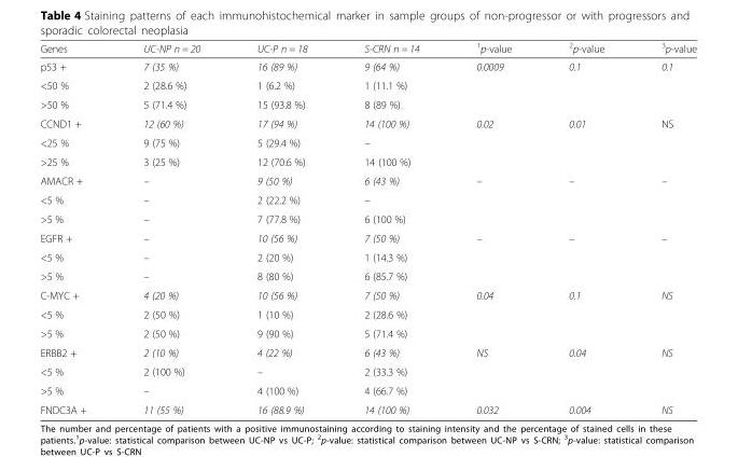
<table><thead><tr><td>Genes</td><td>UC-NP n = 20</td><td>UC-P n = 18</td><td>S-CRN n = 14</td><td><sup>1</sup>p-value</td><td><sup>2</sup>p-value</td><td><sup>3</sup>p-value</td></tr></thead><tbody><tr><td>p53 +</td><td>7 (35 %)</td><td>16 (89 %)</td><td>9 (64 %)</td><td rowspan="3">0.0009</td><td rowspan="3">0.1</td><td rowspan="3">0.1</td></tr><tr><td>&lt;50 %</td><td>2 (28.6 %)</td><td>1 (6.2 %)</td><td>1 (11.1 %)</td></tr><tr><td>&gt;50 %</td><td>5 (71.4 %)</td><td>15 (93.8 %)</td><td>8 (89 %)</td></tr><tr><td>CCND1 +</td><td>12 (60 %)</td><td>17 (94 %)</td><td>14 (100 %)</td><td rowspan="3">0.02</td><td rowspan="3">0.01</td><td rowspan="3">NS</td></tr><tr><td>&lt;25 %</td><td>9 (75 %)</td><td>5 (29.4 %)</td><td>–</td></tr><tr><td>&gt;25 %</td><td>3 (25 %)</td><td>12 (70.6 %)</td><td>14 (100 %)</td></tr><tr><td>AMACR +</td><td>–</td><td>9 (50 %)</td><td>6 (43 %)</td><td rowspan="3">–</td><td rowspan="3">–</td><td rowspan="3">–</td></tr><tr><td>&lt;5 %</td><td>–</td><td>2 (22.2 %)</td><td>–</td></tr><tr><td>&gt;5 %</td><td>–</td><td>7 (77.8 %)</td><td>6 (100 %)</td></tr><tr><td>EGFR +</td><td>–</td><td>10 (56 %)</td><td>7 (50 %)</td><td rowspan="3">–</td><td rowspan="3">–</td><td rowspan="3">–</td></tr><tr><td>&lt;5 %</td><td>–</td><td>2 (20 %)</td><td>1 (14.3 %)</td></tr><tr><td>&gt;5 %</td><td>–</td><td>8 (80 %)</td><td>6 (85.7 %)</td></tr><tr><td>C-MYC +</td><td>4 (20 %)</td><td>10 (56 %)</td><td>7 (50 %)</td><td rowspan="3">0.04</td><td rowspan="3">0.1</td><td rowspan="3">NS</td></tr><tr><td>&lt;5 %</td><td>2 (50 %)</td><td>1 (10 %)</td><td>2 (28.6 %)</td></tr><tr><td>&gt;5 %</td><td>2 (50 %)</td><td>9 (90 %)</td><td>5 (71.4 %)</td></tr><tr><td>ERBB2 +</td><td>2 (10 %)</td><td>4 (22 %)</td><td>6 (43 %)</td><td rowspan="3">NS</td><td rowspan="3">0.04</td><td rowspan="3">NS</td></tr><tr><td>&lt;5 %</td><td>2 (100 %)</td><td>–</td><td>2 (33.3 %)</td></tr><tr><td>&gt;5 %</td><td>–</td><td>4 (100 %)</td><td>4 (66.7 %)</td></tr><tr><td>FNDC3A +</td><td>11 (55 %)</td><td>16 (88.9 %)</td><td>14 (100 %)</td><td>0.032</td><td>0.004</td><td>NS</td></tr></tbody></table>